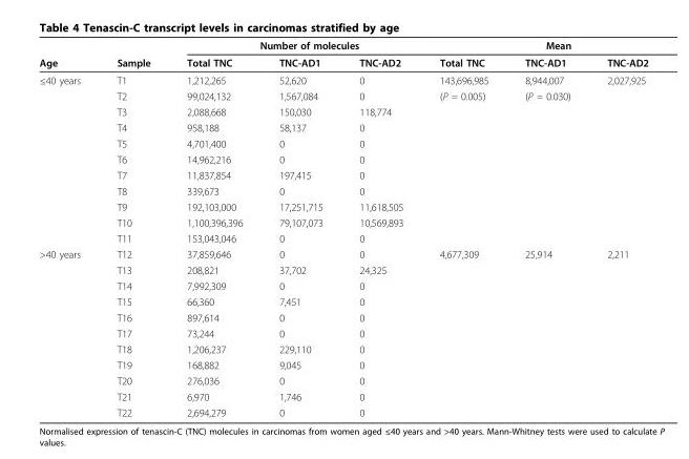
<table><thead><tr><td rowspan="2">Age</td><td rowspan="2">Sample</td><td colspan="3">Number of molecules</td><td colspan="3">Mean</td></tr><tr><td>Total TNC</td><td>TNC-AD1</td><td>TNC-AD2</td><td>Total TNC</td><td>TNC-AD1</td><td>TNC-AD2</td></tr></thead><tbody><tr><td rowspan="11">≤40 years</td><td>T1</td><td>1,212,265</td><td>52,620</td><td>0</td><td>143,696,985</td><td>8,944,007</td><td>2,027,925</td></tr><tr><td>T2</td><td>99,024,132</td><td>1,567,084</td><td>0</td><td>(P = 0.005)</td><td>(P = 0.030)</td><td></td></tr><tr><td>T3</td><td>2,088,668</td><td>150,030</td><td>118,774</td><td></td><td></td><td></td></tr><tr><td>T4</td><td>958,188</td><td>58,137</td><td>0</td><td></td><td></td><td></td></tr><tr><td>T5</td><td>4,701,400</td><td>0</td><td>0</td><td></td><td></td><td></td></tr><tr><td>T6</td><td>14,962,216</td><td>0</td><td>0</td><td></td><td></td><td></td></tr><tr><td>T7</td><td>11,837,854</td><td>197,415</td><td>0</td><td></td><td></td><td></td></tr><tr><td>T8</td><td>339,673</td><td>0</td><td>0</td><td></td><td></td><td></td></tr><tr><td>T9</td><td>192,103,000</td><td>17,251,715</td><td>11,618,505</td><td></td><td></td><td></td></tr><tr><td>T10</td><td>1,100,396,396</td><td>79,107,073</td><td>10,569,893</td><td></td><td></td><td></td></tr><tr><td>T11</td><td>153,043,046</td><td>0</td><td>0</td><td></td><td></td><td></td></tr><tr><td rowspan="11">&gt;40 years</td><td>T12</td><td>37,859,646</td><td>0</td><td>0</td><td>4,677,309</td><td>25,914</td><td>2,211</td></tr><tr><td>T13</td><td>208,821</td><td>37,702</td><td>24,325</td><td></td><td></td><td></td></tr><tr><td>T14</td><td>7,992,309</td><td>0</td><td>0</td><td></td><td></td><td></td></tr><tr><td>T15</td><td>66,360</td><td>7,451</td><td>0</td><td></td><td></td><td></td></tr><tr><td>T16</td><td>897,614</td><td>0</td><td>0</td><td></td><td></td><td></td></tr><tr><td>T17</td><td>73,244</td><td>0</td><td>0</td><td></td><td></td><td></td></tr><tr><td>T18</td><td>1,206,237</td><td>229,110</td><td>0</td><td></td><td></td><td></td></tr><tr><td>T19</td><td>168,882</td><td>9,045</td><td>0</td><td></td><td></td><td></td></tr><tr><td>T20</td><td>276,036</td><td>0</td><td>0</td><td></td><td></td><td></td></tr><tr><td>T21</td><td>6,970</td><td>1,746</td><td>0</td><td></td><td></td><td></td></tr><tr><td>T22</td><td>2,694,279</td><td>0</td><td>0</td><td></td><td></td><td></td></tr></tbody></table>